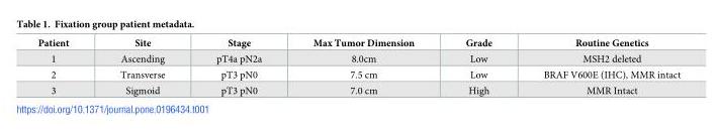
<table><thead><tr><td>Patient</td><td>Site</td><td>Stage</td><td>Max Tumor Dimension</td><td>Grade</td><td>Routine Genetics</td></tr></thead><tbody><tr><td>1</td><td>Ascending</td><td>pT4a pN2a</td><td>8.0cm</td><td>Low</td><td>MSH2 deleted</td></tr><tr><td>2</td><td>Transverse</td><td>pT3 pN0</td><td>7.5 cm</td><td>Low</td><td>BRAF V600E (IHC), MMR intact</td></tr><tr><td>3</td><td>Sigmoid</td><td>pT3 pN0</td><td>7.0 cm</td><td>High</td><td>MMR Intact</td></tr></tbody></table>